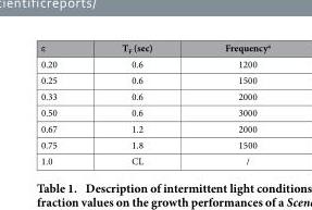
<table><thead><tr><td>ε</td><td>T<sub>F</sub> (sec)</td><td>Frequency<sup>a</sup></td></tr></thead><tbody><tr><td>0.20</td><td>0.6</td><td>1200</td></tr><tr><td>0.25</td><td>0.6</td><td>1500</td></tr><tr><td>0.33</td><td>0.6</td><td>2000</td></tr><tr><td>0.50</td><td>0.6</td><td>3000</td></tr><tr><td>0.67</td><td>1.2</td><td>2000</td></tr><tr><td>0.75</td><td>1.8</td><td>1500</td></tr><tr><td>1.0</td><td>CL</td><td>/</td></tr></tbody></table>